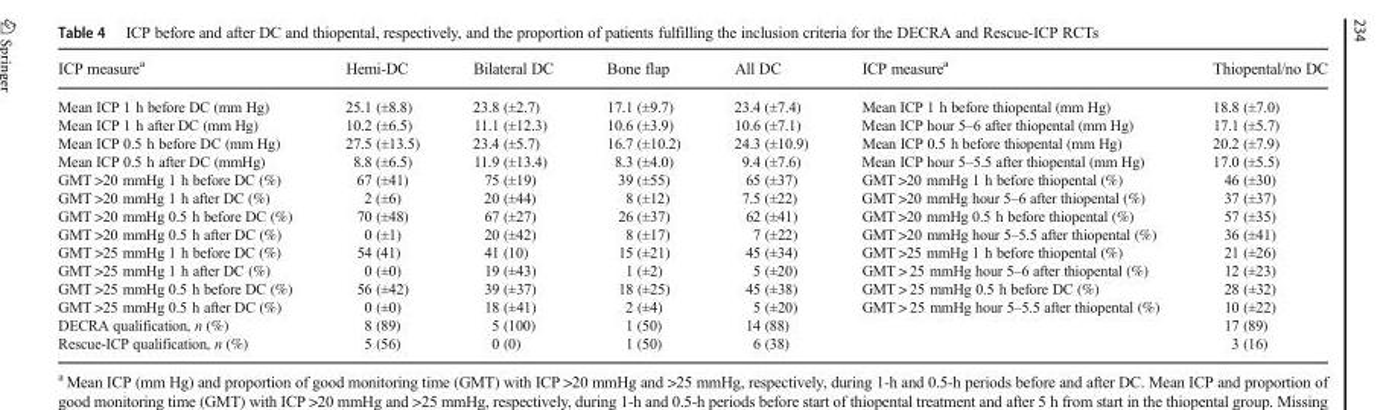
<table><thead><tr><td>ICP measure<sup>a</sup></td><td>Hemi-DC</td><td>Bilateral DC</td><td>Bone flap</td><td>All DC</td><td>ICP measure<sup>a</sup></td><td>Thiopental/no DC</td></tr></thead><tbody><tr><td>Mean ICP 1 h before DC (mm Hg)</td><td>25.1 (±8.8)</td><td>23.8 (±2.7)</td><td>17.1 (±9.7)</td><td>23.4 (±7.4)</td><td>Mean ICP 1 h before thiopental (mm Hg)</td><td>18.8 (±7.0)</td></tr><tr><td>Mean ICP 1 h after DC (mm Hg)</td><td>10.2 (±6.5)</td><td>11.1 (±12.3)</td><td>10.6 (±3.9)</td><td>10.6 (±7.1)</td><td>Mean ICP hour 5–6 after thiopental (mm Hg)</td><td>17.1 (±5.7)</td></tr><tr><td>Mean ICP 0.5 h before DC (mm Hg)</td><td>27.5 (±13.5)</td><td>23.4 (±5.7)</td><td>16.7 (±10.2)</td><td>24.3 (±10.9)</td><td>Mean ICP 0.5 h before thiopental (mm Hg)</td><td>20.2 (±7.9)</td></tr><tr><td>Mean ICP 0.5 h after DC (mmHg)</td><td>8.8 (±6.5)</td><td>11.9 (±13.4)</td><td>8.3 (±4.0)</td><td>9.4 (±7.6)</td><td>Mean ICP hour 5–5.5 after thiopental (mm Hg)</td><td>17.0 (±5.5)</td></tr><tr><td>GMT &gt;20 mmHg 1 h before DC (%)</td><td>67 (±41)</td><td>75 (±19)</td><td>39 (±55)</td><td>65 (±37)</td><td>GMT &gt;20 mmHg 1 h before thiopental (%)</td><td>46 (±30)</td></tr><tr><td>GMT &gt;20 mmHg 1 h after DC (%)</td><td>2 (±6)</td><td>20 (±44)</td><td>8 (±12)</td><td>7.5 (±22)</td><td>GMT &gt;20 mmHg hour 5–6 after thiopental (%)</td><td>37 (±37)</td></tr><tr><td>GMT &gt;20 mmHg 0.5 h before DC (%)</td><td>70 (±48)</td><td>67 (±27)</td><td>26 (±37)</td><td>62 (±41)</td><td>GMT &gt;20 mmHg 0.5 h before thiopental (%)</td><td>57 (±35)</td></tr><tr><td>GMT &gt;20 mmHg 0.5 h after DC (%)</td><td>0 (±1)</td><td>20 (±42)</td><td>8 (±17)</td><td>7 (±22)</td><td>GMT &gt;20 mmHg hour 5–5.5 after thiopental (%)</td><td>36 (±41)</td></tr><tr><td>GMT &gt;25 mmHg 1 h before DC (%)</td><td>54 (41)</td><td>41 (10)</td><td>15 (±21)</td><td>45 (±34)</td><td>GMT &gt;25 mmHg 1 h before thiopental (%)</td><td>21 (±26)</td></tr><tr><td>GMT &gt;25 mmHg 1 h after DC (%)</td><td>0 (±0)</td><td>19 (±43)</td><td>1 (±2)</td><td>5 (±20)</td><td>GMT &gt; 25 mmHg hour 5–6 after thiopental (%)</td><td>12 (±23)</td></tr><tr><td>GMT &gt;25 mmHg 0.5 h before DC (%)</td><td>56 (±42)</td><td>39 (±37)</td><td>18 (±25)</td><td>45 (±38)</td><td>GMT &gt; 25 mmHg 0.5 h before DC (%)</td><td>28 (±32)</td></tr><tr><td>GMT &gt;25 mmHg 0.5 h after DC (%)</td><td>0 (±0)</td><td>18 (±41)</td><td>2 (±4)</td><td>5 (±20)</td><td>GMT &gt; 25 mmHg hour 5–5.5 after thiopental (%)</td><td>10 (±22)</td></tr><tr><td>DECRA qualification, n (%)</td><td>8 (89)</td><td>5 (100)</td><td>1 (50)</td><td>14 (88)</td><td></td><td>17 (89)</td></tr><tr><td>Rescue-ICP qualification, n (%)</td><td>5 (56)</td><td>0 (0)</td><td>1 (50)</td><td>6 (38)</td><td></td><td>3 (16)</td></tr></tbody></table>